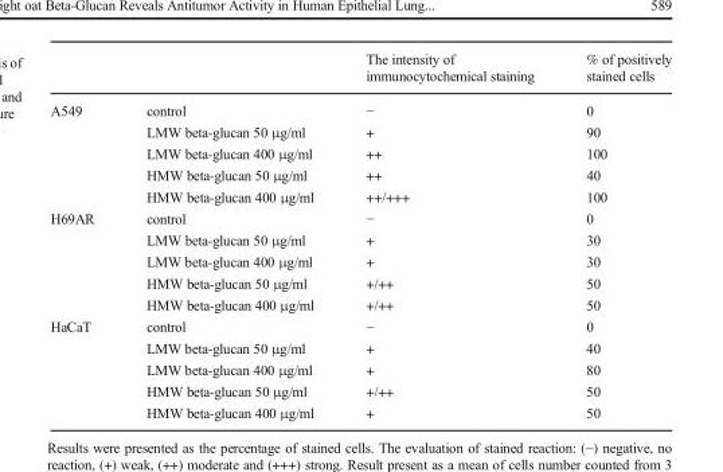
<table><thead><tr><td></td><td></td><td>The intensity of immunocytochemical staining</td><td>% of positively stained cells</td></tr></thead><tbody><tr><td rowspan="5">A549</td><td>control</td><td>−</td><td>0</td></tr><tr><td>LMW beta-glucan 50 μg/ml</td><td>+</td><td>90</td></tr><tr><td>LMW beta-glucan 400 μg/ml</td><td>++</td><td>100</td></tr><tr><td>HMW beta-glucan 50 μg/ml</td><td>++</td><td>40</td></tr><tr><td>HMW beta-glucan 400 μg/ml</td><td>++/+++</td><td>100</td></tr><tr><td rowspan="5">H69AR</td><td>control</td><td>−</td><td>0</td></tr><tr><td>LMW beta-glucan 50 μg/ml</td><td>+</td><td>30</td></tr><tr><td>LMW beta-glucan 400 μg/ml</td><td>+</td><td>30</td></tr><tr><td>HMW beta-glucan 50 μg/ml</td><td>+/++</td><td>50</td></tr><tr><td>HMW beta-glucan 400 μg/ml</td><td>+/++</td><td>50</td></tr><tr><td rowspan="5">HaCaT</td><td>control</td><td>−</td><td>0</td></tr><tr><td>LMW beta-glucan 50 μg/ml</td><td>+</td><td>40</td></tr><tr><td>LMW beta-glucan 400 μg/ml</td><td>+</td><td>80</td></tr><tr><td>HMW beta-glucan 50 μg/ml</td><td>+/++</td><td>50</td></tr><tr><td>HMW beta-glucan 400 μg/ml</td><td>+</td><td>50</td></tr></tbody></table>